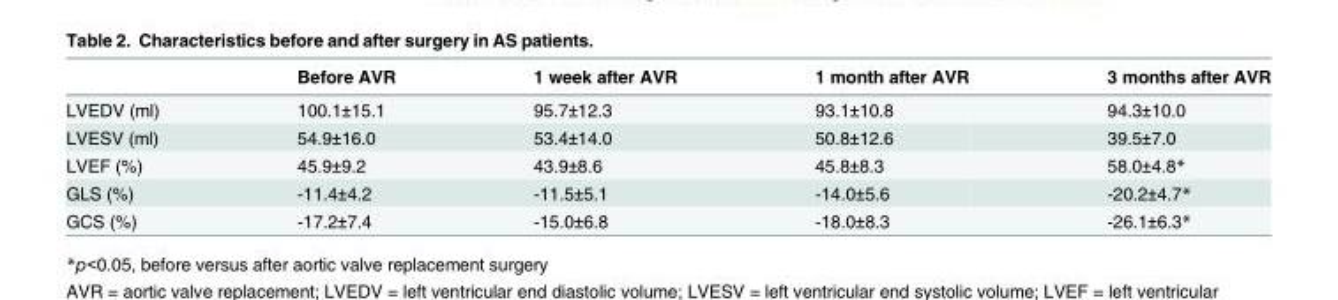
<table><thead><tr><td></td><td>Before AVR</td><td>1 week after AVR</td><td>1 month after AVR</td><td>3 months after AVR</td></tr></thead><tbody><tr><td>LVEDV (ml)</td><td>100.1±15.1</td><td>95.7±12.3</td><td>93.1±10.8</td><td>94.3±10.0</td></tr><tr><td>LVESV (ml)</td><td>54.9±16.0</td><td>53.4±14.0</td><td>50.8±12.6</td><td>39.5±7.0</td></tr><tr><td>LVEF (%)</td><td>45.9±9.2</td><td>43.9±8.6</td><td>45.8±8.3</td><td>58.0±4.8*</td></tr><tr><td>GLS (%)</td><td>-11.4±4.2</td><td>-11.5±5.1</td><td>-14.0±5.6</td><td>-20.2±4.7*</td></tr><tr><td>GCS (%)</td><td>-17.2±7.4</td><td>-15.0±6.8</td><td>-18.0±8.3</td><td>-26.1±6.3*</td></tr></tbody></table>